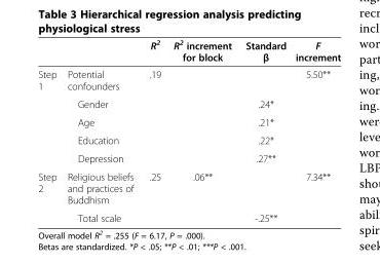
<table><thead><tr><td></td><td></td><td>R<sup>2</sup></td><td>R<sup>2</sup> increment for block</td><td>Standard β</td><td>F increment</td></tr></thead><tbody><tr><td rowspan="5">Step 1</td><td>Potential confounders</td><td>.19</td><td></td><td></td><td>5.50**</td></tr><tr><td>Gender</td><td></td><td></td><td>.24*</td><td></td></tr><tr><td>Age</td><td></td><td></td><td>.21*</td><td></td></tr><tr><td>Education</td><td></td><td></td><td>.22*</td><td></td></tr><tr><td>Depression</td><td></td><td></td><td>.27**</td><td></td></tr><tr><td rowspan="2">Step 2</td><td>Religious beliefs and practices of Buddhism</td><td>.25</td><td>.06**</td><td></td><td>7.34**</td></tr><tr><td>Total scale</td><td></td><td></td><td>-.25**</td><td></td></tr></tbody></table>